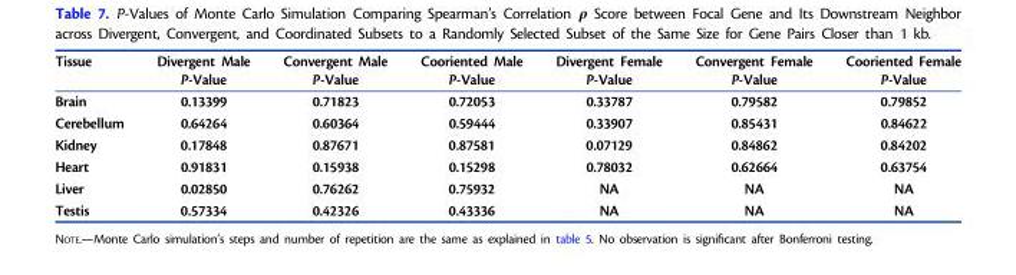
<table><thead><tr><td>Tissue</td><td>Divergent Male P-Value</td><td>Convergent Male P-Value</td><td>Cooriented Male P-Value</td><td>Divergent Female P-Value</td><td>Convergent Female P-Value</td><td>Cooriented Female P-Value</td></tr></thead><tbody><tr><td>Brain</td><td>0.13399</td><td>0.71823</td><td>0.72053</td><td>0.33787</td><td>0.79582</td><td>0.79852</td></tr><tr><td>Cerebellum</td><td>0.64264</td><td>0.60364</td><td>0.59444</td><td>0.33907</td><td>0.85431</td><td>0.84622</td></tr><tr><td>Kidney</td><td>0.17848</td><td>0.87671</td><td>0.87581</td><td>0.07129</td><td>0.84862</td><td>0.84202</td></tr><tr><td>Heart</td><td>0.91831</td><td>0.15938</td><td>0.15298</td><td>0.78032</td><td>0.62664</td><td>0.63754</td></tr><tr><td>Liver</td><td>0.02850</td><td>0.76262</td><td>0.75932</td><td>NA</td><td>NA</td><td>NA</td></tr><tr><td>Testis</td><td>0.57334</td><td>0.42326</td><td>0.43336</td><td>NA</td><td>NA</td><td>NA</td></tr></tbody></table>